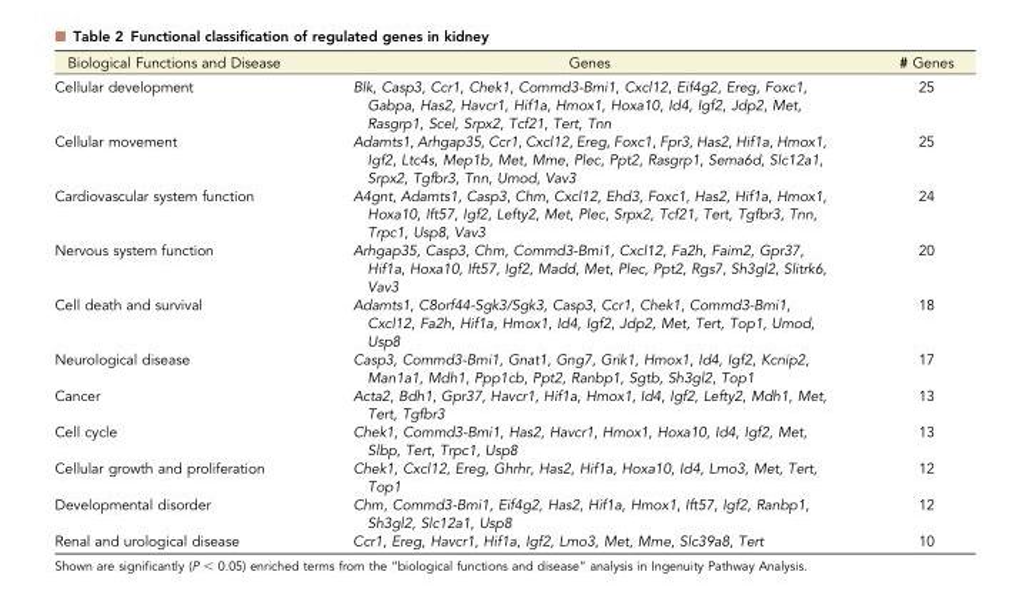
<table><thead><tr><td>Biological Functions and Disease</td><td>Genes</td><td># Genes</td></tr></thead><tbody><tr><td>Cellular development</td><td>Blk, Casp3, Ccr1, Chek1, Commd3-Bmi1, Cxcl12, Eif4g2, Ereg, Foxc1, Gabpa, Has2, Havcr1, Hif1a, Hmox1, Hoxa10, Id4, Igf2, Jdp2, Met, Rasgrp1, Scel, Srpx2, Tcf21, Tert, Tnn</td><td>25</td></tr><tr><td>Cellular movement</td><td>Adamts1, Arhgap35, Ccr1, Cxcl12, Ereg, Foxc1, Fpr3, Has2, Hif1a, Hmox1, Igf2, Ltc4s, Mep1b, Met, Mme, Plec, Ppt2, Rasgrp1, Sema6d, Slc12a1, Srpx2, Tgfbr3, Tnn, Umod, Vav3</td><td>25</td></tr><tr><td>Cardiovascular system function</td><td>A4gnt, Adamts1, Casp3, Chm, Cxcl12, Ehd3, Foxc1, Has2, Hif1a, Hmox1, Hoxa10, Ift57, Igf2, Lefty2, Met, Plec, Srpx2, Tcf21, Tert, Tgfbr3, Tnn, Trpc1, Usp8, Vav3</td><td>24</td></tr><tr><td>Nervous system function</td><td>Arhgap35, Casp3, Chm, Commd3-Bmi1, Cxcl12, Fa2h, Faim2, Gpr37, Hif1a, Hoxa10, Ift57, Igf2, Madd, Met, Plec, Ppt2, Rgs7, Sh3gl2, Slitrk6, Vav3</td><td>20</td></tr><tr><td>Cell death and survival</td><td>Adamts1, C8orf44-Sgk3/Sgk3, Casp3, Ccr1, Chek1, Commd3-Bmi1, Cxcl12, Fa2h, Hif1a, Hmox1, Id4, Igf2, Jdp2, Met, Tert, Top1, Umod, Usp8</td><td>18</td></tr><tr><td>Neurological disease</td><td>Casp3, Commd3-Bmi1, Gnat1, Gng7, Grik1, Hmox1, Id4, Igf2, Kcnip2, Man1a1, Mdh1, Ppp1cb, Ppt2, Ranbp1, Sgtb, Sh3gl2, Top1</td><td>17</td></tr><tr><td>Cancer</td><td>Acta2, Bdh1, Gpr37, Havcr1, Hif1a, Hmox1, Id4, Igf2, Lefty2, Mdh1, Met, Tert, Tgfbr3</td><td>13</td></tr><tr><td>Cell cycle</td><td>Chek1, Commd3-Bmi1, Has2, Havcr1, Hmox1, Hoxa10, Id4, Igf2, Met, Slbp, Tert, Trpc1, Usp8</td><td>13</td></tr><tr><td>Cellular growth and proliferation</td><td>Chek1, Cxcl12, Ereg, Ghrhr, Has2, Hif1a, Hoxa10, Id4, Lmo3, Met, Tert, Top1</td><td>12</td></tr><tr><td>Developmental disorder</td><td>Chm, Commd3-Bmi1, Eif4g2, Has2, Hif1a, Hmox1, Ift57, Igf2, Ranbp1, Sh3gl2, Slc12a1, Usp8</td><td>12</td></tr><tr><td>Renal and urological disease</td><td>Ccr1, Ereg, Havcr1, Hif1a, Igf2, Lmo3, Met, Mme, Slc39a8, Tert</td><td>10</td></tr></tbody></table>